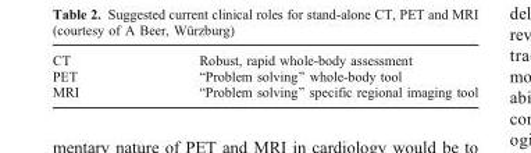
<table><tbody><tr><td>CT</td><td>Robust, rapid whole-body assessment</td></tr><tr><td>PET</td><td>“Problem solving” whole-body tool</td></tr><tr><td>MRI</td><td>“Problem solving” specific regional imaging tool</td></tr></tbody></table>